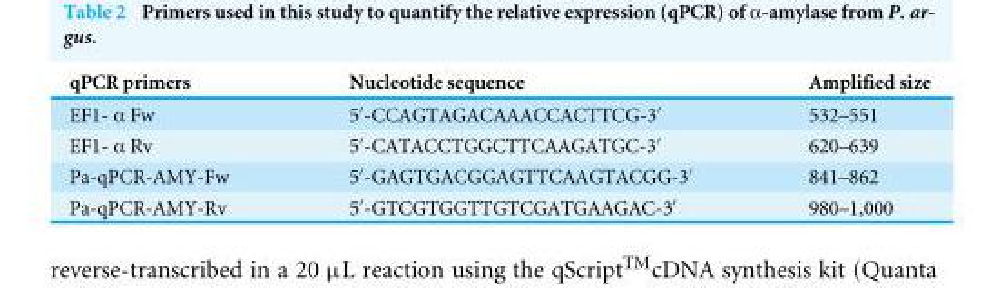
<table><thead><tr><td>qPCR primers</td><td>Nucleotide sequence</td><td>Amplified size</td></tr></thead><tbody><tr><td>EF1- α Fw</td><td>5′-CCAGTAGACAAACCACTTCG-3′</td><td>532–551</td></tr><tr><td>EF1- α Rv</td><td>5′-CATACCTGGCTTCAAGATGC-3′</td><td>620–639</td></tr><tr><td>Pa-qPCR-AMY-Fw</td><td>5′-GAGTGACGGAGTTCAAGTACGG-3′</td><td>841–862</td></tr><tr><td>Pa-qPCR-AMY-Rv</td><td>5′-GTCGTGGTTGTCGATGAAGAC-3′</td><td>980–1,000</td></tr></tbody></table>